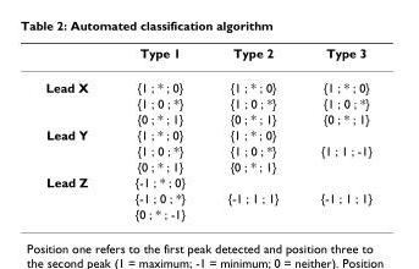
<table><thead><tr><td></td><td>Type 1</td><td>Type 2</td><td>Type 3</td></tr></thead><tbody><tr><td rowspan="3">Lead X</td><td>{1 ; * ; 0}</td><td>{1 ; * ; 0}</td><td>{1 ; * ; 0}</td></tr><tr><td>{1 ; 0 ; *}</td><td>{1 ; 0 ; *}</td><td>{1 ; 0 ; *}</td></tr><tr><td>{0 ; * ; 1}</td><td>{0 ; * ; 1}</td><td>{0 ; * ; 1}</td></tr><tr><td rowspan="3">Lead Y</td><td>{1 ; * ; 0}</td><td>{1 ; * ; 0}</td><td></td></tr><tr><td>{1 ; 0 ; *}</td><td>{1 ; 0 ; *}</td><td>{1 ; 1 ; -1}</td></tr><tr><td>{0 ; * ; 1}</td><td>{0 ; * ; 1}</td><td></td></tr><tr><td rowspan="3">Lead Z</td><td>{-1 ; * ; 0}</td><td></td><td></td></tr><tr><td>{-1 ; 0 ; *}</td><td>{-1 ; 1 ; 1}</td><td>{-1 ; 1 ; 1}</td></tr><tr><td>{0 ; * ; -1}</td><td></td><td></td></tr></tbody></table>